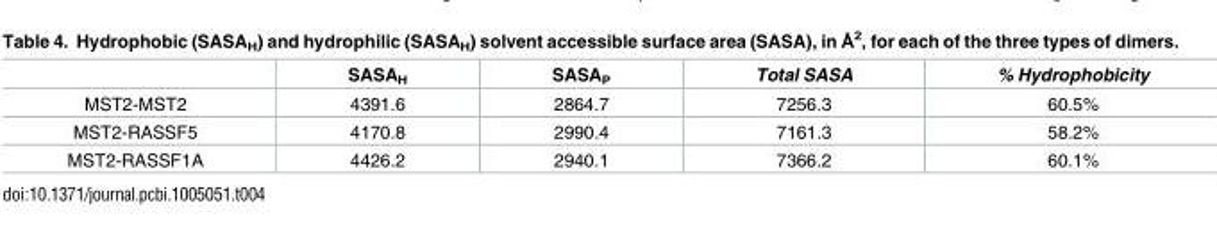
<table><thead><tr><td></td><td>SASA<sub>H</sub></td><td>SASA<sub>P</sub></td><td>Total SASA</td><td>% Hydrophobicity</td></tr></thead><tbody><tr><td>MST2-MST2</td><td>4391.6</td><td>2864.7</td><td>7256.3</td><td>60.5%</td></tr><tr><td>MST2-RASSF5</td><td>4170.8</td><td>2990.4</td><td>7161.3</td><td>58.2%</td></tr><tr><td>MST2-RASSF1A</td><td>4426.2</td><td>2940.1</td><td>7366.2</td><td>60.1%</td></tr></tbody></table>